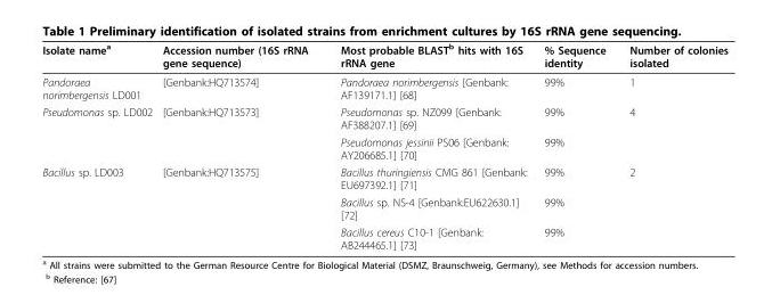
<table><thead><tr><td>Isolate name<sup>a</sup></td><td>Accession number (16S rRNA gene sequence)</td><td>Most probable BLAST<sup>b</sup> hits with 16S rRNA gene</td><td>% Sequence identity</td><td>Number of colonies isolated</td></tr></thead><tbody><tr><td>Pandoraea norimbergensis LD001</td><td>[Genbank:HQ713574]</td><td>Pandoraea norimbergensis [Genbank: AF139171.1] [68]</td><td>99%</td><td>1</td></tr><tr><td rowspan="2">Pseudomonas sp. LD002</td><td>[Genbank:HQ713573]</td><td>Pseudomonas sp. NZ099 [Genbank: AF388207.1] [69]</td><td>99%</td><td>4</td></tr><tr><td></td><td>Pseudomonas jessinii PS06 [Genbank: AY206685.1] [70]</td><td>99%</td><td></td></tr><tr><td rowspan="3">Bacillus sp. LD003</td><td>[Genbank:HQ713575]</td><td>Bacillus thuringiensis CMG 861 [Genbank: EU697392.1] [71]</td><td>99%</td><td>2</td></tr><tr><td></td><td>Bacillus sp. NS-4 [Genbank:EU622630.1] [72]</td><td>99%</td><td></td></tr><tr><td></td><td>Bacillus cereus C10-1 [Genbank: AB244465.1] [73]</td><td>99%</td><td></td></tr></tbody></table>